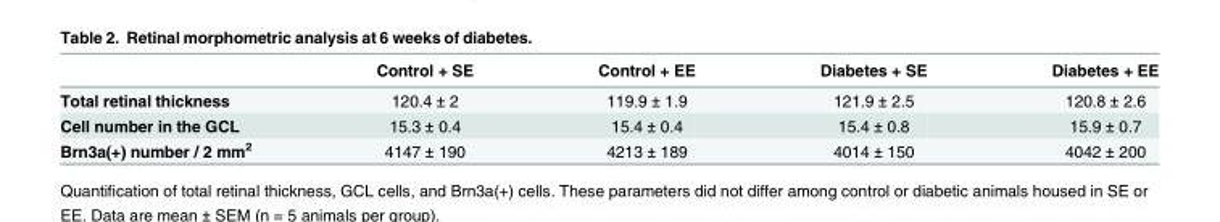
<table><thead><tr><td></td><td>Control + SE</td><td>Control + EE</td><td>Diabetes + SE</td><td>Diabetes + EE</td></tr></thead><tbody><tr><td>Total retinal thickness</td><td>120.4 ± 2</td><td>119.9 ± 1.9</td><td>121.9 ± 2.5</td><td>120.8 ± 2.6</td></tr><tr><td>Cell number in the GCL</td><td>15.3 ± 0.4</td><td>15.4 ± 0.4</td><td>15.4 ± 0.8</td><td>15.9 ± 0.7</td></tr><tr><td>Brn3a(+) number / 2 mm<sup>2</sup></td><td>4147 ± 190</td><td>4213 ± 189</td><td>4014 ± 150</td><td>4042 ± 200</td></tr></tbody></table>